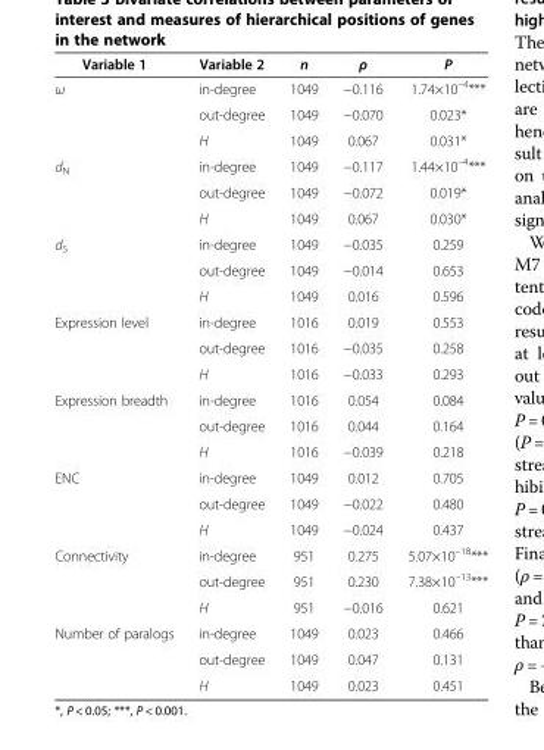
<table><thead><tr><td>Variable 1</td><td>Variable 2</td><td>n</td><td>ρ</td><td>P</td></tr></thead><tbody><tr><td rowspan="3">ω</td><td>in-degree</td><td>1049</td><td>−0.116</td><td>1.74×10<sup>–4</sup>***</td></tr><tr><td>out-degree</td><td>1049</td><td>−0.070</td><td>0.023*</td></tr><tr><td>H</td><td>1049</td><td>0.067</td><td>0.031*</td></tr><tr><td rowspan="3">d<sub>N</sub></td><td>in-degree</td><td>1049</td><td>−0.117</td><td>1.44×10<sup>–4</sup>***</td></tr><tr><td>out-degree</td><td>1049</td><td>−0.072</td><td>0.019*</td></tr><tr><td>H</td><td>1049</td><td>0.067</td><td>0.030*</td></tr><tr><td rowspan="3">d<sub>S</sub></td><td>in-degree</td><td>1049</td><td>−0.035</td><td>0.259</td></tr><tr><td>out-degree</td><td>1049</td><td>−0.014</td><td>0.653</td></tr><tr><td>H</td><td>1049</td><td>0.016</td><td>0.596</td></tr><tr><td rowspan="3">Expression level</td><td>in-degree</td><td>1016</td><td>0.019</td><td>0.553</td></tr><tr><td>out-degree</td><td>1016</td><td>−0.035</td><td>0.258</td></tr><tr><td>H</td><td>1016</td><td>−0.033</td><td>0.293</td></tr><tr><td rowspan="3">Expression breadth</td><td>in-degree</td><td>1016</td><td>0.054</td><td>0.084</td></tr><tr><td>out-degree</td><td>1016</td><td>0.044</td><td>0.164</td></tr><tr><td>H</td><td>1016</td><td>−0.039</td><td>0.218</td></tr><tr><td rowspan="3">ENC</td><td>in-degree</td><td>1049</td><td>0.012</td><td>0.705</td></tr><tr><td>out-degree</td><td>1049</td><td>−0.022</td><td>0.480</td></tr><tr><td>H</td><td>1049</td><td>−0.024</td><td>0.437</td></tr><tr><td rowspan="3">Connectivity</td><td>in-degree</td><td>951</td><td>0.275</td><td>5.07×10<sup>–18</sup>***</td></tr><tr><td>out-degree</td><td>951</td><td>0.230</td><td>7.38×10<sup>–13</sup>***</td></tr><tr><td>H</td><td>951</td><td>−0.016</td><td>0.621</td></tr><tr><td rowspan="3">Number of paralogs</td><td>in-degree</td><td>1049</td><td>0.023</td><td>0.466</td></tr><tr><td>out-degree</td><td>1049</td><td>0.047</td><td>0.131</td></tr><tr><td>H</td><td>1049</td><td>0.023</td><td>0.451</td></tr></tbody></table>